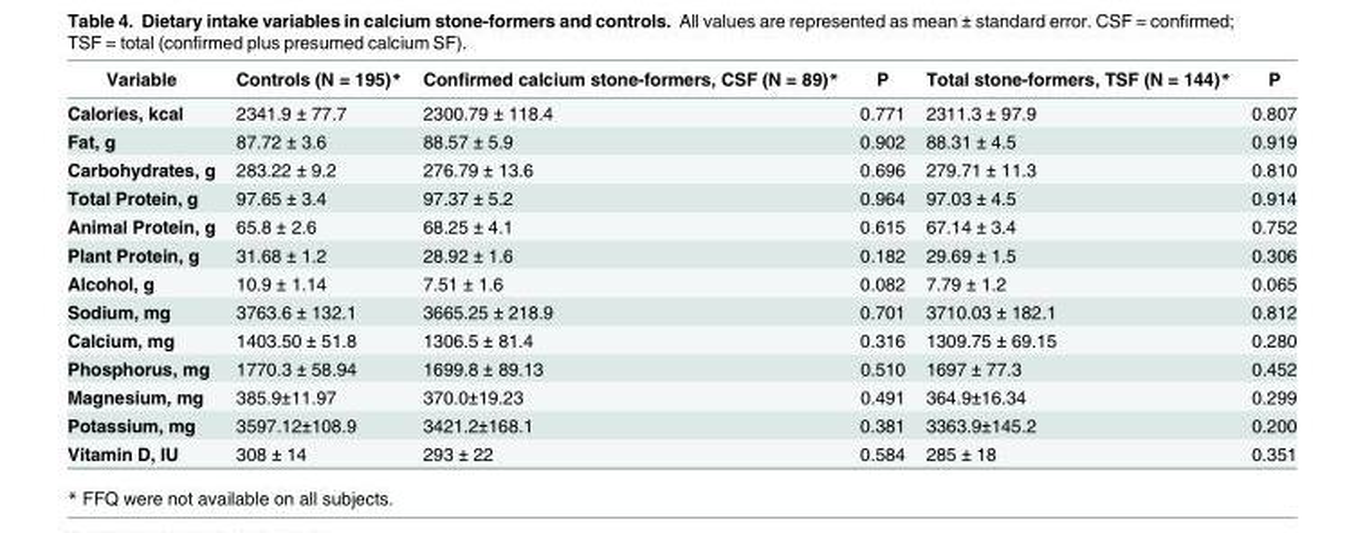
<table><thead><tr><td>Variable</td><td>Controls (N = 195)*</td><td>Confirmed calcium stone-formers, CSF (N = 89)*</td><td>P</td><td>Total stone-formers, TSF (N = 144)*</td><td>P</td></tr></thead><tbody><tr><td>Calories, kcal</td><td>2341.9 ± 77.7</td><td>2300.79 ± 118.4</td><td>0.771</td><td>2311.3 ± 97.9</td><td>0.807</td></tr><tr><td>Fat, g</td><td>87.72 ± 3.6</td><td>88.57 ± 5.9</td><td>0.902</td><td>88.31 ± 4.5</td><td>0.919</td></tr><tr><td>Carbohydrates, g</td><td>283.22 ± 9.2</td><td>276.79 ± 13.6</td><td>0.696</td><td>279.71 ± 11.3</td><td>0.810</td></tr><tr><td>Total Protein, g</td><td>97.65 ± 3.4</td><td>97.37 ± 5.2</td><td>0.964</td><td>97.03 ± 4.5</td><td>0.914</td></tr><tr><td>Animal Protein, g</td><td>65.8 ± 2.6</td><td>68.25 ± 4.1</td><td>0.615</td><td>67.14 ± 3.4</td><td>0.752</td></tr><tr><td>Plant Protein, g</td><td>31.68 ± 1.2</td><td>28.92 ± 1.6</td><td>0.182</td><td>29.69 ± 1.5</td><td>0.306</td></tr><tr><td>Alcohol, g</td><td>10.9 ± 1.14</td><td>7.51 ± 1.6</td><td>0.082</td><td>7.79 ± 1.2</td><td>0.065</td></tr><tr><td>Sodium, mg</td><td>3763.6 ± 132.1</td><td>3665.25 ± 218.9</td><td>0.701</td><td>3710.03 ± 182.1</td><td>0.812</td></tr><tr><td>Calcium, mg</td><td>1403.50 ± 51.8</td><td>1306.5 ± 81.4</td><td>0.316</td><td>1309.75 ± 69.15</td><td>0.280</td></tr><tr><td>Phosphorus, mg</td><td>1770.3 ± 58.94</td><td>1699.8 ± 89.13</td><td>0.510</td><td>1697 ± 77.3</td><td>0.452</td></tr><tr><td>Magnesium, mg</td><td>385.9±11.97</td><td>370.0±19.23</td><td>0.491</td><td>364.9±16.34</td><td>0.299</td></tr><tr><td>Potassium, mg</td><td>3597.12±108.9</td><td>3421.2±168.1</td><td>0.381</td><td>3363.9±145.2</td><td>0.200</td></tr><tr><td>Vitamin D, IU</td><td>308 ± 14</td><td>293 ± 22</td><td>0.584</td><td>285 ± 18</td><td>0.351</td></tr></tbody></table>